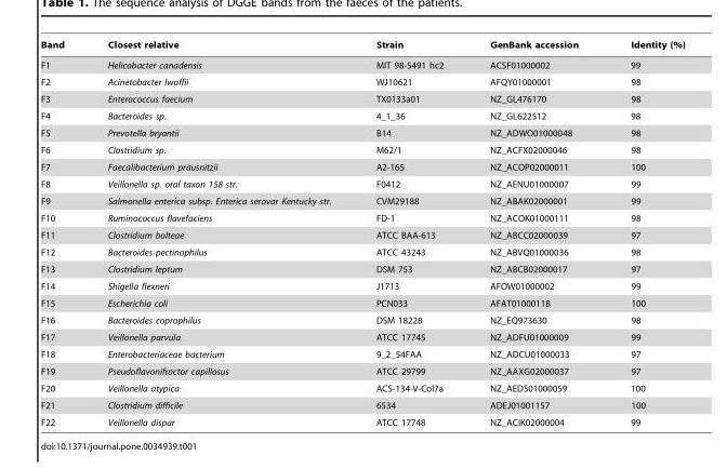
<table><thead><tr><td>Band</td><td>Closest relative</td><td>Strain</td><td>GenBank accession</td><td>Identity (%)</td></tr></thead><tbody><tr><td>F1</td><td>Helicobacter canadensis</td><td>MIT 98-5491 hc2</td><td>ACSF01000002</td><td>99</td></tr><tr><td>F2</td><td>Acinetobacter lwoffii</td><td>WJ10621</td><td>AFQY01000001</td><td>98</td></tr><tr><td>F3</td><td>Enterococcus faecium</td><td>TX0133a01</td><td>NZ_GL476170</td><td>98</td></tr><tr><td>F4</td><td>Bacteroides sp.</td><td>4_1_36</td><td>NZ_GL622512</td><td>98</td></tr><tr><td>F5</td><td>Prevotella bryantii</td><td>B14</td><td>NZ_ADWO01000048</td><td>98</td></tr><tr><td>F6</td><td>Clostridium sp.</td><td>M62/1</td><td>NZ_ACFX02000046</td><td>98</td></tr><tr><td>F7</td><td>Faecalibacterium prausnitzii</td><td>A2-165</td><td>NZ_ACOP02000011</td><td>100</td></tr><tr><td>F8</td><td>Veillonella sp. oral taxon 158 str.</td><td>F0412</td><td>NZ_AENU01000007</td><td>99</td></tr><tr><td>F9</td><td>Salmonella enterica subsp. Enterica serovar Kentucky str.</td><td>CVM29188</td><td>NZ_ABAK02000001</td><td>99</td></tr><tr><td>F10</td><td>Ruminococcus flavefaciens</td><td>FD-1</td><td>NZ_ACOK01000111</td><td>98</td></tr><tr><td>F11</td><td>Clostridium bolteae</td><td>ATCC BAA-613</td><td>NZ_ABCC02000039</td><td>97</td></tr><tr><td>F12</td><td>Bacteroides pectinophilus</td><td>ATCC 43243</td><td>NZ_ABVQ01000036</td><td>98</td></tr><tr><td>F13</td><td>Clostridium leptum</td><td>DSM 753</td><td>NZ_ABCB02000017</td><td>97</td></tr><tr><td>F14</td><td>Shigella flexneri</td><td>J1713</td><td>AFOW01000002</td><td>99</td></tr><tr><td>F15</td><td>Escherichia coli</td><td>PCN033</td><td>AFAT01000118</td><td>100</td></tr><tr><td>F16</td><td>Bacteroides coprophilus</td><td>DSM 18228</td><td>NZ_EQ973630</td><td>98</td></tr><tr><td>F17</td><td>Veillonella parvula</td><td>ATCC 17745</td><td>NZ_ADFU01000009</td><td>99</td></tr><tr><td>F18</td><td>Enterobacteriaceae bacterium</td><td>9_2_54FAA</td><td>NZ_ADCU01000033</td><td>97</td></tr><tr><td>F19</td><td>Pseudoflavonifractor capillosus</td><td>ATCC 29799</td><td>NZ_AAXG02000037</td><td>97</td></tr><tr><td>F20</td><td>Veillonella atypica</td><td>ACS-134-V-Col7a</td><td>NZ_AEDS01000059</td><td>100</td></tr><tr><td>F21</td><td>Clostridium difficile</td><td>6534</td><td>ADEJ01001157</td><td>100</td></tr><tr><td>F22</td><td>Veillonella dispar</td><td>ATCC 17748</td><td>NZ_ACIK02000004</td><td>99</td></tr></tbody></table>